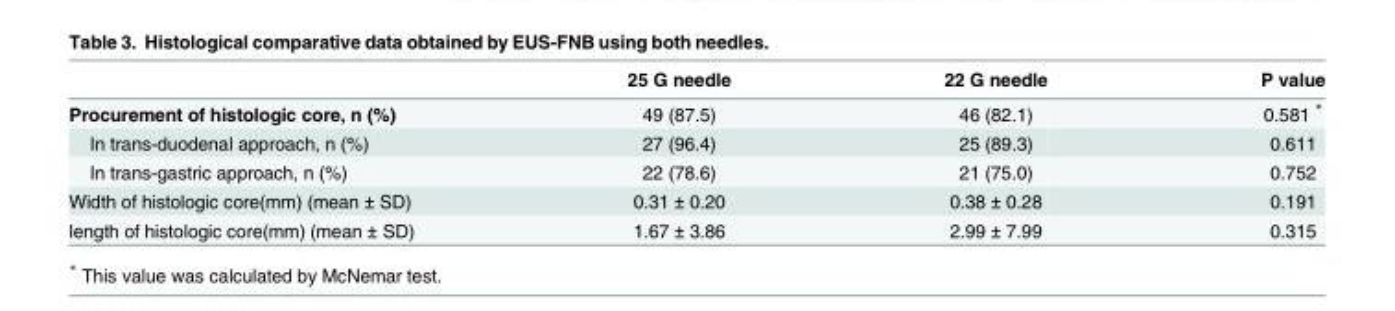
<table><thead><tr><td></td><td>25 G needle</td><td>22 G needle</td><td>P value</td></tr></thead><tbody><tr><td>Procurement of histologic core, n (%)</td><td>49 (87.5)</td><td>46 (82.1)</td><td>0.581 *</td></tr><tr><td>In trans-duodenal approach, n (%)</td><td>27 (96.4)</td><td>25 (89.3)</td><td>0.611</td></tr><tr><td>In trans-gastric approach, n (%)</td><td>22 (78.6)</td><td>21 (75.0)</td><td>0.752</td></tr><tr><td>Width of histologic core(mm) (mean ± SD)</td><td>0.31 ± 0.20</td><td>0.38 ± 0.28</td><td>0.191</td></tr><tr><td>length of histologic core(mm) (mean ± SD)</td><td>1.67 ± 3.86</td><td>2.99 ± 7.99</td><td>0.315</td></tr></tbody></table>